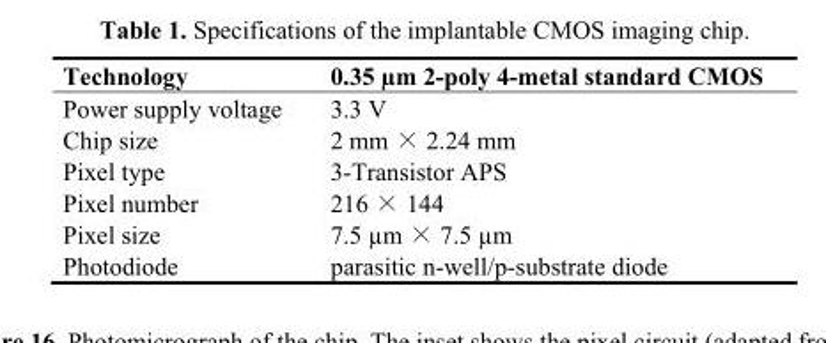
<table><thead><tr><td>Technology</td><td>0.35 µm 2-poly 4-metal standard CMOS</td></tr></thead><tbody><tr><td>Power supply voltage</td><td>3.3 V</td></tr><tr><td>Chip size</td><td>2 mm × 2.24 mm</td></tr><tr><td>Pixel type</td><td>3-Transistor APS</td></tr><tr><td>Pixel number</td><td>216 × 144</td></tr><tr><td>Pixel size</td><td>7.5 µm × 7.5 µm</td></tr><tr><td>Photodiode</td><td>parasitic n-well/p-substrate diode</td></tr></tbody></table>